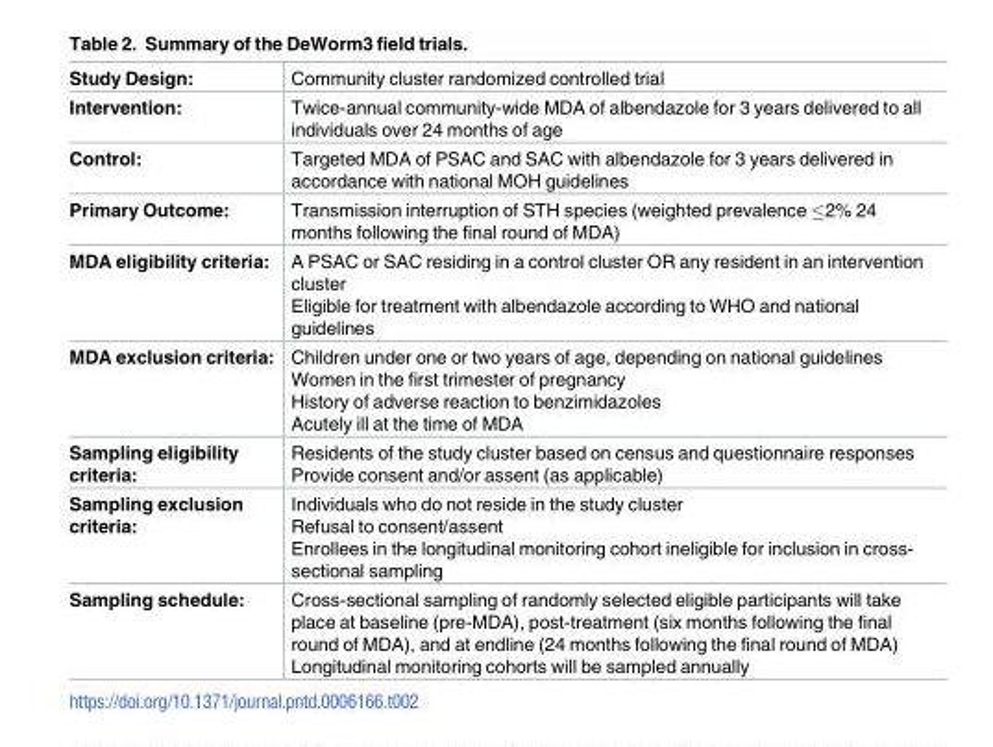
<table><tbody><tr><td>Study Design:</td><td>Community cluster randomized controlled trial</td></tr><tr><td>Intervention:</td><td>Twice-annual community-wide MDA of albendazole for 3 years delivered to all individuals over 24 months of age</td></tr><tr><td>Control:</td><td>Targeted MDA of PSAC and SAC with albendazole for 3 years delivered in accordance with national MOH guidelines</td></tr><tr><td>Primary Outcome:</td><td>Transmission interruption of STH species (weighted prevalence ≤2% 24 months following the final round of MDA)</td></tr><tr><td>MDA eligibility criteria:</td><td>A PSAC or SAC residing in a control cluster OR any resident in an intervention cluster Eligible for treatment with albendazole according to WHO and national guidelines</td></tr><tr><td>MDA exclusion criteria:</td><td>Children under one or two years of age, depending on national guidelines Women in the first trimester of pregnancy History of adverse reaction to benzimidazoles Acutely ill at the time of MDA</td></tr><tr><td>Sampling eligibility criteria:</td><td>Residents of the study cluster based on census and questionnaire responses Provide consent and/or assent (as applicable)</td></tr><tr><td>Sampling exclusion criteria:</td><td>Individuals who do not reside in the study cluster Refusal to consent/assent Enrollees in the longitudinal monitoring cohort ineligible for inclusion in cross- sectional sampling</td></tr><tr><td>Sampling schedule:</td><td>Cross-sectional sampling of randomly selected eligible participants will take place at baseline (pre-MDA), post-treatment (six months following the final round of MDA), and at endline (24 months following the final round of MDA) Longitudinal monitoring cohorts will be sampled annually</td></tr></tbody></table>